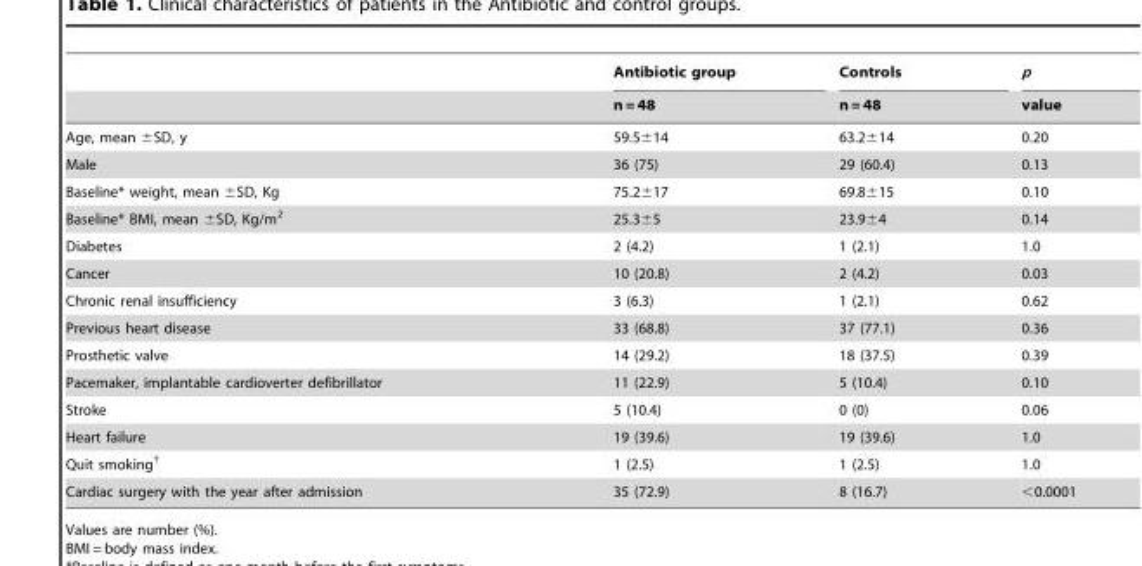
<table><thead><tr><td rowspan="2"></td><td rowspan="2">Antibiotic group n = 48</td><td rowspan="2">Controls n = 48</td><td rowspan="2">p value</td></tr><tr></tr></thead><tbody><tr><td>Age, mean ±SD, y</td><td>59.5±14</td><td>63.2±14</td><td>0.20</td></tr><tr><td>Male</td><td>36 (75)</td><td>29 (60.4)</td><td>0.13</td></tr><tr><td>Baseline* weight, mean ±SD, Kg</td><td>75.2±17</td><td>69.8±15</td><td>0.10</td></tr><tr><td>Baseline* BMI, mean ±SD, Kg/m<sup>2</sup></td><td>25.3±5</td><td>23.9±4</td><td>0.14</td></tr><tr><td>Diabetes</td><td>2 (4.2)</td><td>1 (2.1)</td><td>1.0</td></tr><tr><td>Cancer</td><td>10 (20.8)</td><td>2 (4.2)</td><td>0.03</td></tr><tr><td>Chronic renal insufficiency</td><td>3 (6.3)</td><td>1 (2.1)</td><td>0.62</td></tr><tr><td>Previous heart disease</td><td>33 (68.8)</td><td>37 (77.1)</td><td>0.36</td></tr><tr><td>Prosthetic valve</td><td>14 (29.2)</td><td>18 (37.5)</td><td>0.39</td></tr><tr><td>Pacemaker, implantable cardioverter defibrillator</td><td>11 (22.9)</td><td>5 (10.4)</td><td>0.10</td></tr><tr><td>Stroke</td><td>5 (10.4)</td><td>0 (0)</td><td>0.06</td></tr><tr><td>Heart failure</td><td>19 (39.6)</td><td>19 (39.6)</td><td>1.0</td></tr><tr><td>Quit smoking†</td><td>1 (2.5)</td><td>1 (2.5)</td><td>1.0</td></tr><tr><td>Cardiac surgery with the year after admission</td><td>35 (72.9)</td><td>8 (16.7)</td><td>&lt;0.0001</td></tr></tbody></table>